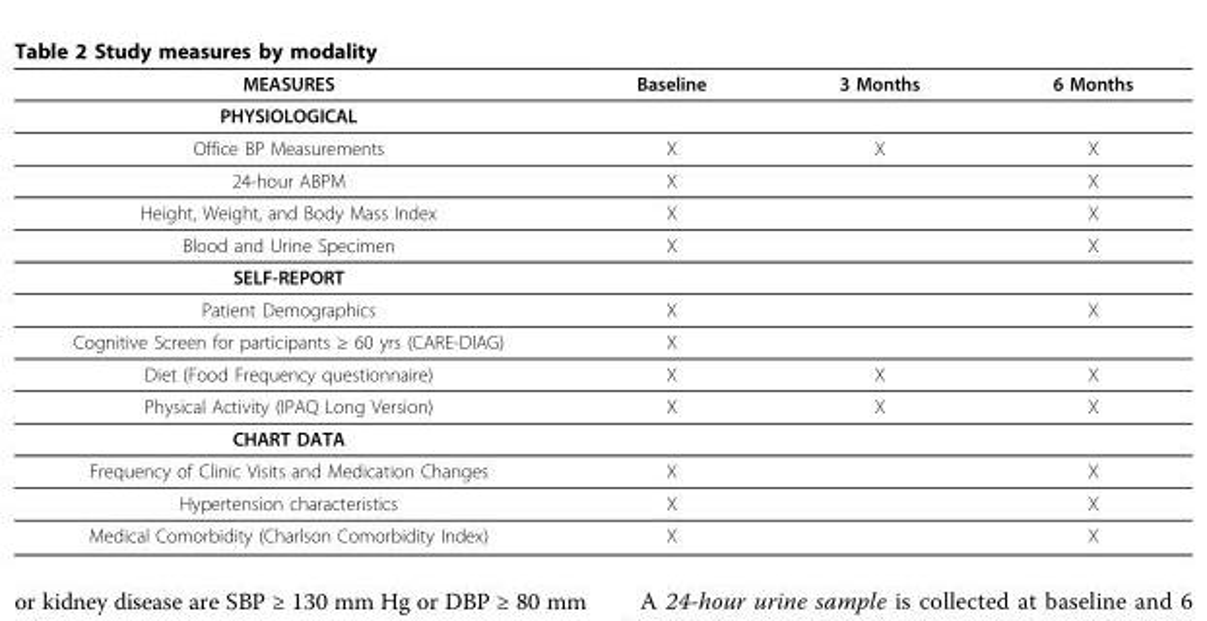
<table><thead><tr><td>MEASURES</td><td>Baseline</td><td>3 Months</td><td>6 Months</td></tr></thead><tbody><tr><td colspan="4">PHYSIOLOGICAL</td></tr><tr><td>Office BP Measurements</td><td>X</td><td>X</td><td>X</td></tr><tr><td>24-hour ABPM</td><td>X</td><td></td><td>X</td></tr><tr><td>Height, Weight, and Body Mass Index</td><td>X</td><td></td><td>X</td></tr><tr><td>Blood and Urine Specimen</td><td>X</td><td></td><td>X</td></tr><tr><td colspan="4">SELF-REPORT</td></tr><tr><td>Patient Demographics</td><td>X</td><td></td><td>X</td></tr><tr><td>Cognitive Screen for participants ≥ 60 yrs (CARE-DIAG)</td><td>X</td><td></td><td></td></tr><tr><td>Diet (Food Frequency questionnaire)</td><td>X</td><td>X</td><td>X</td></tr><tr><td>Physical Activity (IPAQ Long Version)</td><td>X</td><td>X</td><td>X</td></tr><tr><td colspan="4">CHART DATA</td></tr><tr><td>Frequency of Clinic Visits and Medication Changes</td><td>X</td><td></td><td>X</td></tr><tr><td>Hypertension characteristics</td><td>X</td><td></td><td>X</td></tr><tr><td>Medical Comorbidity (Charlson Comorbidity Index)</td><td>X</td><td></td><td>X</td></tr></tbody></table>